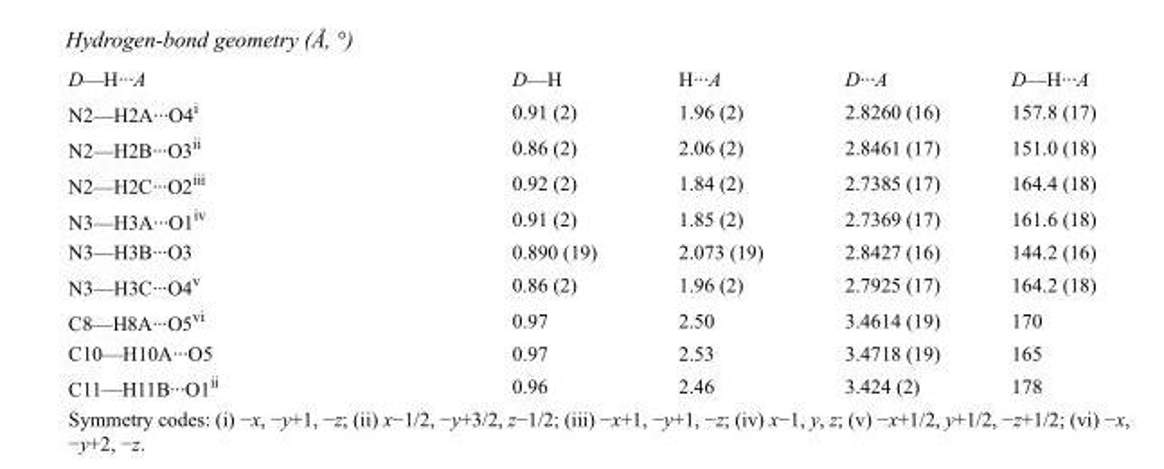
<table><tbody><tr><td>D—H···A</td><td>D—H</td><td>H···A</td><td>D···A</td><td>D—H···A</td></tr><tr><td>N2—H2A···O4<sup>i</sup></td><td>0.91 (2)</td><td>1.96 (2)</td><td>2.8260 (16)</td><td>157.8 (17)</td></tr><tr><td>N2—H2B···O3<sup>ii</sup></td><td>0.86 (2)</td><td>2.06 (2)</td><td>2.8461 (17)</td><td>151.0 (18)</td></tr><tr><td>N2—H2C···O2<sup>iii</sup></td><td>0.92 (2)</td><td>1.84 (2)</td><td>2.7385 (17)</td><td>164.4 (18)</td></tr><tr><td>N3—H3A···O1<sup>iv</sup></td><td>0.91 (2)</td><td>1.85 (2)</td><td>2.7369 (17)</td><td>161.6 (18)</td></tr><tr><td>N3—H3B···O3</td><td>0.890 (19)</td><td>2.073 (19)</td><td>2.8427 (16)</td><td>144.2 (16)</td></tr><tr><td>N3—H3C···O4<sup>v</sup></td><td>0.86 (2)</td><td>1.96 (2)</td><td>2.7925 (17)</td><td>164.2 (18)</td></tr><tr><td>C8—H8A···O5<sup>vi</sup></td><td>0.97</td><td>2.50</td><td>3.4614 (19)</td><td>170</td></tr><tr><td>C10—H10A···O5</td><td>0.97</td><td>2.53</td><td>3.4718 (19)</td><td>165</td></tr><tr><td>C11—H11B···O1<sup>ii</sup></td><td>0.96</td><td>2.46</td><td>3.424 (2)</td><td>178</td></tr></tbody></table>